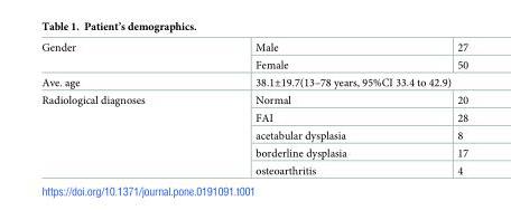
<table><tbody><tr><td rowspan="2">Gender</td><td>Male</td><td>27</td></tr><tr><td>Female</td><td>50</td></tr><tr><td>Ave. age</td><td colspan="2">38.1±19.7(13–78 years, 95%CI 33.4 to 42.9)</td></tr><tr><td rowspan="5">Radiological diagnoses</td><td>Normal</td><td>20</td></tr><tr><td>FAI</td><td>28</td></tr><tr><td>acetabular dysplasia</td><td>8</td></tr><tr><td>borderline dysplasia</td><td>17</td></tr><tr><td>osteoarthritis</td><td>4</td></tr></tbody></table>